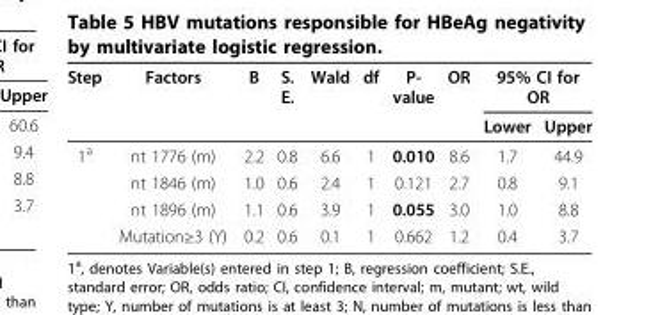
<table><thead><tr><td rowspan="2">Step</td><td rowspan="2">Factors</td><td rowspan="2">B</td><td rowspan="2">S. E.</td><td rowspan="2">Wald</td><td rowspan="2">df</td><td rowspan="2">P- value</td><td rowspan="2">OR</td><td colspan="2">95% CI for OR</td></tr><tr><td>Lower</td><td>Upper</td></tr></thead><tbody><tr><td rowspan="4">1<sup>a</sup></td><td>nt 1776 (m)</td><td>2.2</td><td>0.8</td><td>6.6</td><td>1</td><td>0.010</td><td>8.6</td><td>1.7</td><td>44.9</td></tr><tr><td>nt 1846 (m)</td><td>1.0</td><td>0.6</td><td>2.4</td><td>1</td><td>0.121</td><td>2.7</td><td>0.8</td><td>9.1</td></tr><tr><td>nt 1896 (m)</td><td>1.1</td><td>0.6</td><td>3.9</td><td>1</td><td>0.055</td><td>3.0</td><td>1.0</td><td>8.8</td></tr><tr><td>Mutation≥3 (Y)</td><td>0.2</td><td>0.6</td><td>0.1</td><td>1</td><td>0.662</td><td>1.2</td><td>0.4</td><td>3.7</td></tr></tbody></table>